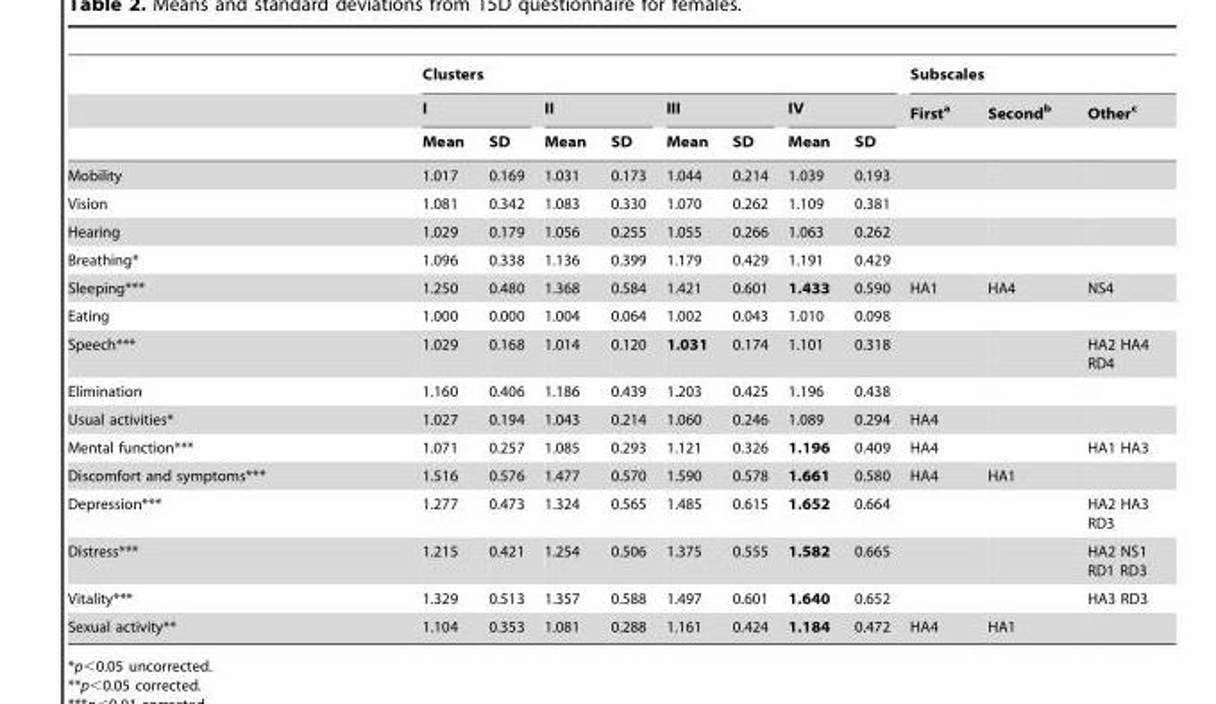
<table><thead><tr><td rowspan="3"></td><td colspan="8">Clusters</td><td colspan="3">Subscales</td></tr><tr><td colspan="2">I</td><td colspan="2">II</td><td colspan="2">III</td><td colspan="2">IV</td><td rowspan="2">First<sup>a</sup></td><td rowspan="2">Second<sup>b</sup></td><td rowspan="2">Other<sup>c</sup></td></tr><tr><td>Mean</td><td>SD</td><td>Mean</td><td>SD</td><td>Mean</td><td>SD</td><td>Mean</td><td>SD</td></tr></thead><tbody><tr><td>Mobility</td><td>1.017</td><td>0.169</td><td>1.031</td><td>0.173</td><td>1.044</td><td>0.214</td><td>1.039</td><td>0.193</td><td></td><td></td><td></td></tr><tr><td>Vision</td><td>1.081</td><td>0.342</td><td>1.083</td><td>0.330</td><td>1.070</td><td>0.262</td><td>1.109</td><td>0.381</td><td></td><td></td><td></td></tr><tr><td>Hearing</td><td>1.029</td><td>0.179</td><td>1.056</td><td>0.255</td><td>1.055</td><td>0.266</td><td>1.063</td><td>0.262</td><td></td><td></td><td></td></tr><tr><td>Breathing*</td><td>1.096</td><td>0.338</td><td>1.136</td><td>0.399</td><td>1.179</td><td>0.429</td><td>1.191</td><td>0.429</td><td></td><td></td><td></td></tr><tr><td>Sleeping***</td><td>1.250</td><td>0.480</td><td>1.368</td><td>0.584</td><td>1.421</td><td>0.601</td><td>1.433</td><td>0.590</td><td>HA1</td><td>HA4</td><td>NS4</td></tr><tr><td>Eating</td><td>1.000</td><td>0.000</td><td>1.004</td><td>0.064</td><td>1.002</td><td>0.043</td><td>1.010</td><td>0.098</td><td></td><td></td><td></td></tr><tr><td>Speech***</td><td>1.029</td><td>0.168</td><td>1.014</td><td>0.120</td><td>1.031</td><td>0.174</td><td>1.101</td><td>0.318</td><td></td><td></td><td>HA2 HA4 RD4</td></tr><tr><td>Elimination</td><td>1.160</td><td>0.406</td><td>1.186</td><td>0.439</td><td>1.203</td><td>0.425</td><td>1.196</td><td>0.438</td><td></td><td></td><td></td></tr><tr><td>Usual activities*</td><td>1.027</td><td>0.194</td><td>1.043</td><td>0.214</td><td>1.060</td><td>0.246</td><td>1.089</td><td>0.294</td><td>HA4</td><td></td><td></td></tr><tr><td>Mental function***</td><td>1.071</td><td>0.257</td><td>1.085</td><td>0.293</td><td>1.121</td><td>0.326</td><td>1.196</td><td>0.409</td><td>HA4</td><td></td><td>HA1 HA3</td></tr><tr><td>Discomfort and symptoms***</td><td>1.516</td><td>0.576</td><td>1.477</td><td>0.570</td><td>1.590</td><td>0.578</td><td>1.661</td><td>0.580</td><td>HA4</td><td>HA1</td><td></td></tr><tr><td>Depression***</td><td>1.277</td><td>0.473</td><td>1.324</td><td>0.565</td><td>1.485</td><td>0.615</td><td>1.652</td><td>0.664</td><td></td><td></td><td>HA2 HA3 RD3</td></tr><tr><td>Distress***</td><td>1.215</td><td>0.421</td><td>1.254</td><td>0.506</td><td>1.375</td><td>0.555</td><td>1.582</td><td>0.665</td><td></td><td></td><td>HA2 NS1 RD1 RD3</td></tr><tr><td>Vitality***</td><td>1.329</td><td>0.513</td><td>1.357</td><td>0.588</td><td>1.497</td><td>0.601</td><td>1.640</td><td>0.652</td><td></td><td></td><td>HA3 RD3</td></tr><tr><td>Sexual activity**</td><td>1.104</td><td>0.353</td><td>1.081</td><td>0.288</td><td>1.161</td><td>0.424</td><td>1.184</td><td>0.472</td><td>HA4</td><td>HA1</td><td></td></tr></tbody></table>